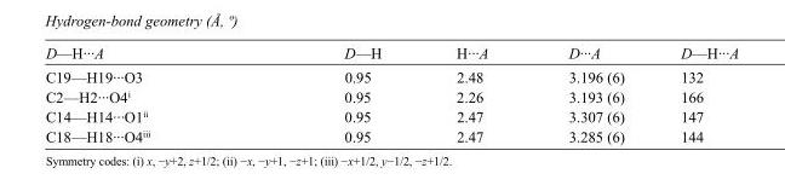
<table><tbody><tr><td>D—H···A</td><td>D—H</td><td>H···A</td><td>D···A</td><td>D—H···A</td></tr><tr><td>C19—H19···O3</td><td>0.95</td><td>2.48</td><td>3.196 (6)</td><td>132</td></tr><tr><td>C2—H2···O4<sup>i</sup></td><td>0.95</td><td>2.26</td><td>3.193 (6)</td><td>166</td></tr><tr><td>C14—H14···O1<sup>ii</sup></td><td>0.95</td><td>2.47</td><td>3.307 (6)</td><td>147</td></tr><tr><td>C18—H18···O4<sup>iii</sup></td><td>0.95</td><td>2.47</td><td>3.285 (6)</td><td>144</td></tr></tbody></table>